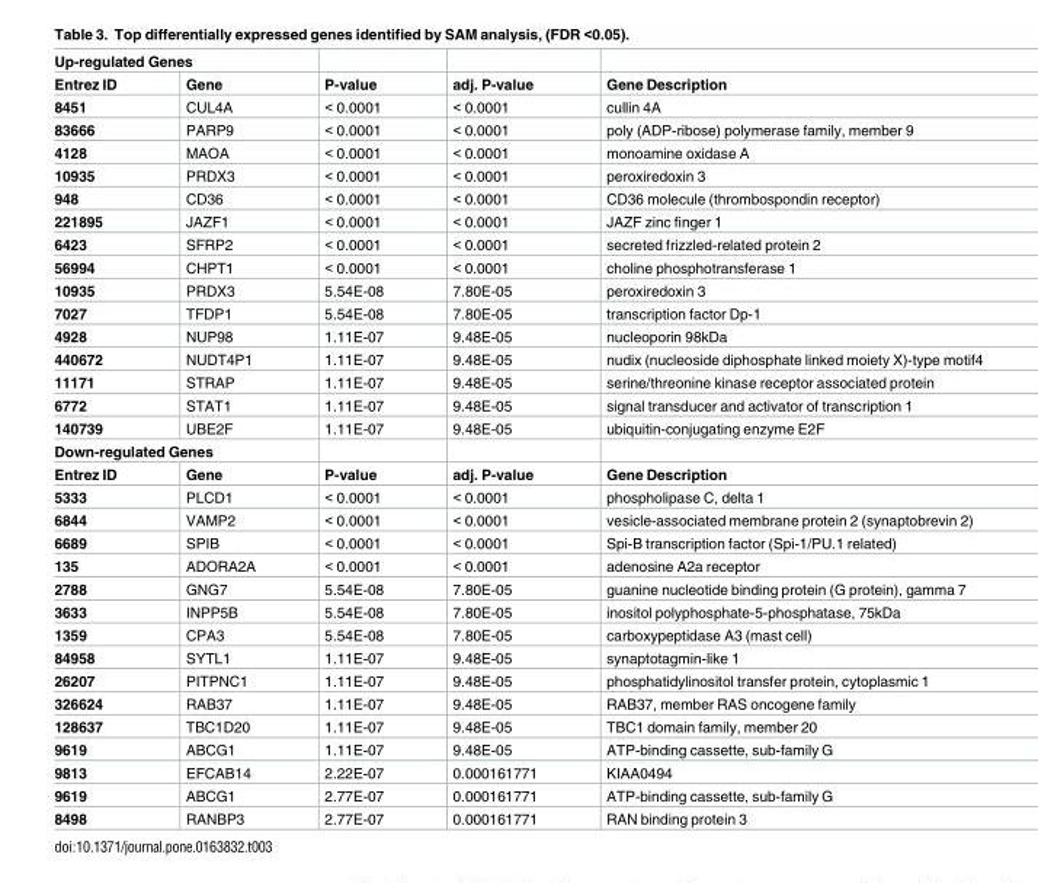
<table><tbody><tr><td colspan="5">Up-regulated Genes</td></tr><tr><td>Entrez ID</td><td>Gene</td><td>P-value</td><td>adj. P-value</td><td>Gene Description</td></tr><tr><td>8451</td><td>CUL4A</td><td>&lt; 0.0001</td><td>&lt; 0.0001</td><td>cullin 4A</td></tr><tr><td>83666</td><td>PARP9</td><td>&lt; 0.0001</td><td>&lt; 0.0001</td><td>poly (ADP-ribose) polymerase family, member 9</td></tr><tr><td>4128</td><td>MAOA</td><td>&lt; 0.0001</td><td>&lt; 0.0001</td><td>monoamine oxidase A</td></tr><tr><td>10935</td><td>PRDX3</td><td>&lt; 0.0001</td><td>&lt; 0.0001</td><td>peroxiredoxin 3</td></tr><tr><td>948</td><td>CD36</td><td>&lt; 0.0001</td><td>&lt; 0.0001</td><td>CD36 molecule (thrombospondin receptor)</td></tr><tr><td>221895</td><td>JAZF1</td><td>&lt; 0.0001</td><td>&lt; 0.0001</td><td>JAZF zinc finger 1</td></tr><tr><td>6423</td><td>SFRP2</td><td>&lt; 0.0001</td><td>&lt; 0.0001</td><td>secreted frizzled-related protein 2</td></tr><tr><td>56994</td><td>CHPT1</td><td>&lt; 0.0001</td><td>&lt; 0.0001</td><td>choline phosphotransferase 1</td></tr><tr><td>10935</td><td>PRDX3</td><td>5.54E-08</td><td>7.80E-05</td><td>peroxiredoxin 3</td></tr><tr><td>7027</td><td>TFDP1</td><td>5.54E-08</td><td>7.80E-05</td><td>transcription factor Dp-1</td></tr><tr><td>4928</td><td>NUP98</td><td>1.11E-07</td><td>9.48E-05</td><td>nucleoporin 98kDa</td></tr><tr><td>440672</td><td>NUDT4P1</td><td>1.11E-07</td><td>9.48E-05</td><td>nudix (nucleoside diphosphate linked moiety X)-type motif4</td></tr><tr><td>11171</td><td>STRAP</td><td>1.11E-07</td><td>9.48E-05</td><td>serine/threonine kinase receptor associated protein</td></tr><tr><td>6772</td><td>STAT1</td><td>1.11E-07</td><td>9.48E-05</td><td>signal transducer and activator of transcription 1</td></tr><tr><td>140739</td><td>UBE2F</td><td>1.11E-07</td><td>9.48E-05</td><td>ubiquitin-conjugating enzyme E2F</td></tr><tr><td colspan="5">Down-regulated Genes</td></tr><tr><td>Entrez ID</td><td>Gene</td><td>P-value</td><td>adj. P-value</td><td>Gene Description</td></tr><tr><td>5333</td><td>PLCD1</td><td>&lt; 0.0001</td><td>&lt; 0.0001</td><td>phospholipase C, delta 1</td></tr><tr><td>6844</td><td>VAMP2</td><td>&lt; 0.0001</td><td>&lt; 0.0001</td><td>vesicle-associated membrane protein 2 (synaptobrevin 2)</td></tr><tr><td>6689</td><td>SPIB</td><td>&lt; 0.0001</td><td>&lt; 0.0001</td><td>Spi-B transcription factor (Spi-1/PU.1 related)</td></tr><tr><td>135</td><td>ADORA2A</td><td>&lt; 0.0001</td><td>&lt; 0.0001</td><td>adenosine A2a receptor</td></tr><tr><td>2788</td><td>GNG7</td><td>5.54E-08</td><td>7.80E-05</td><td>guanine nucleotide binding protein (G protein), gamma 7</td></tr><tr><td>3633</td><td>INPP5B</td><td>5.54E-08</td><td>7.80E-05</td><td>inositol polyphosphate-5-phosphatase, 75kDa</td></tr><tr><td>1359</td><td>CPA3</td><td>5.54E-08</td><td>7.80E-05</td><td>carboxypeptidase A3 (mast cell)</td></tr><tr><td>84958</td><td>SYTL1</td><td>1.11E-07</td><td>9.48E-05</td><td>synaptotagmin-like 1</td></tr><tr><td>26207</td><td>PITPNC1</td><td>1.11E-07</td><td>9.48E-05</td><td>phosphatidylinositol transfer protein, cytoplasmic 1</td></tr><tr><td>326624</td><td>RAB37</td><td>1.11E-07</td><td>9.48E-05</td><td>RAB37, member RAS oncogene family</td></tr><tr><td>128637</td><td>TBC1D20</td><td>1.11E-07</td><td>9.48E-05</td><td>TBC1 domain family, member 20</td></tr><tr><td>9619</td><td>ABCG1</td><td>1.11E-07</td><td>9.48E-05</td><td>ATP-binding cassette, sub-family G</td></tr><tr><td>9813</td><td>EFCAB14</td><td>2.22E-07</td><td>0.000161771</td><td>KIAA0494</td></tr><tr><td>9619</td><td>ABCG1</td><td>2.77E-07</td><td>0.000161771</td><td>ATP-binding cassette, sub-family G</td></tr><tr><td>8498</td><td>RANBP3</td><td>2.77E-07</td><td>0.000161771</td><td>RAN binding protein 3</td></tr></tbody></table>